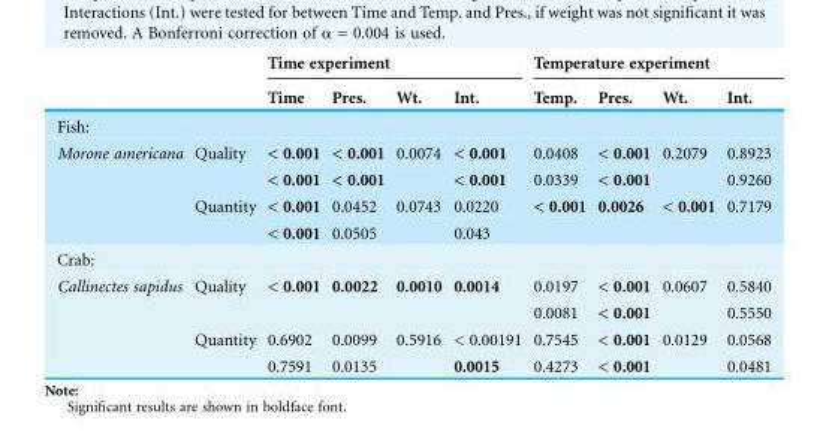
<table><thead><tr><td rowspan="2"></td><td rowspan="2"></td><td colspan="4">Time experiment</td><td colspan="4">Temperature experiment</td></tr><tr><td>Time</td><td>Pres.</td><td>Wt.</td><td>Int.</td><td>Temp.</td><td>Pres.</td><td>Wt.</td><td>Int.</td></tr></thead><tbody><tr><td colspan="10">Fish:</td></tr><tr><td rowspan="4">Morone americana</td><td>Quality</td><td>&lt; 0.001</td><td>&lt; 0.001</td><td>0.0074</td><td>&lt; 0.001</td><td>0.0408</td><td>&lt; 0.001</td><td>0.2079</td><td>0.8923</td></tr><tr><td></td><td>&lt; 0.001</td><td>&lt; 0.001</td><td></td><td>&lt; 0.001</td><td>0.0339</td><td>&lt; 0.001</td><td></td><td>0.9260</td></tr><tr><td>Quantity</td><td>&lt; 0.001</td><td>0.0452</td><td>0.0743</td><td>0.0220</td><td>&lt; 0.001</td><td>0.0026</td><td>&lt; 0.001</td><td>0.7179</td></tr><tr><td></td><td>&lt; 0.001</td><td>0.0505</td><td></td><td>0.043</td><td></td><td></td><td></td><td></td></tr><tr><td colspan="10">Crab:</td></tr><tr><td rowspan="4">Callinectes sapidus</td><td>Quality</td><td>&lt; 0.001</td><td>0.0022</td><td>0.0010</td><td>0.0014</td><td>0.0197</td><td>&lt; 0.001</td><td>0.0607</td><td>0.5840</td></tr><tr><td></td><td></td><td></td><td></td><td></td><td>0.0081</td><td>&lt; 0.001</td><td></td><td>0.5550</td></tr><tr><td>Quantity</td><td>0.6902</td><td>0.0099</td><td>0.5916</td><td>&lt; 0.00191</td><td>0.7545</td><td>&lt; 0.001</td><td>0.0129</td><td>0.0568</td></tr><tr><td></td><td>0.7591</td><td>0.0135</td><td></td><td>0.0015</td><td>0.4273</td><td>&lt; 0.001</td><td></td><td>0.0481</td></tr></tbody></table>